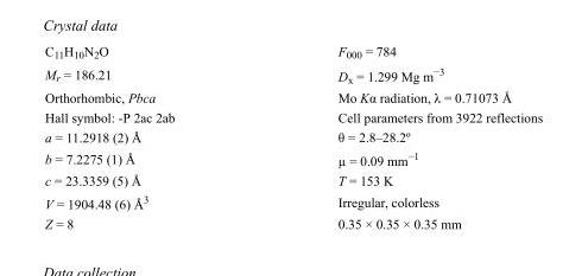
<table><tbody><tr><td>C<sub>11</sub>H<sub>10</sub>N<sub>2</sub>O</td><td>F000 = 784</td></tr><tr><td>M<sub>r</sub> = 186.21</td><td>D<sub>x</sub> = 1.299 Mg m<sup>−3</sup></td></tr><tr><td>Orthorhombic, Pbca</td><td>Mo Kα radiation, λ = 0.71073 Å</td></tr><tr><td>Hall symbol: -P 2ac 2ab</td><td>Cell parameters from 3922 reflections</td></tr><tr><td>a = 11.2918 (2) Å</td><td>θ = 2.8–28.2º</td></tr><tr><td>b = 7.2275 (1) Å</td><td>µ = 0.09 mm<sup>−1</sup></td></tr><tr><td>c = 23.3359 (5) Å</td><td>T = 153 K</td></tr><tr><td>V = 1904.48 (6) Å<sup>3</sup></td><td>Irregular, colorless</td></tr><tr><td>Z = 8</td><td>0.35 × 0.35 × 0.35 mm</td></tr></tbody></table>